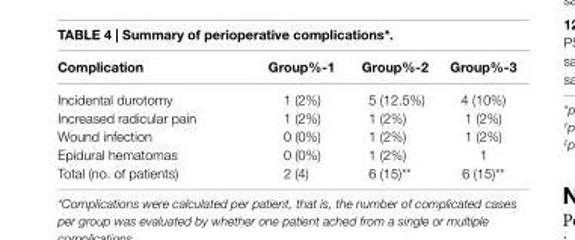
<table><thead><tr><td>complication</td><td>group%-1</td><td>group%-2</td><td>group%-3</td></tr></thead><tbody><tr><td>Incidental durotomy</td><td>1 (2%)</td><td>5 (12.5%)</td><td>4 (10%)</td></tr><tr><td>Increased radicular pain</td><td>1 (2%)</td><td>1 (2%)</td><td>1 (2%)</td></tr><tr><td>Wound infection</td><td>0 (0%)</td><td>1 (2%)</td><td>1 (2%)</td></tr><tr><td>Epidural hematomas</td><td>0 (0%)</td><td>1 (2%)</td><td>1</td></tr><tr><td>Total (no. of patients)</td><td>2 (4)</td><td>6 (15)**</td><td>6 (15)**</td></tr></tbody></table>